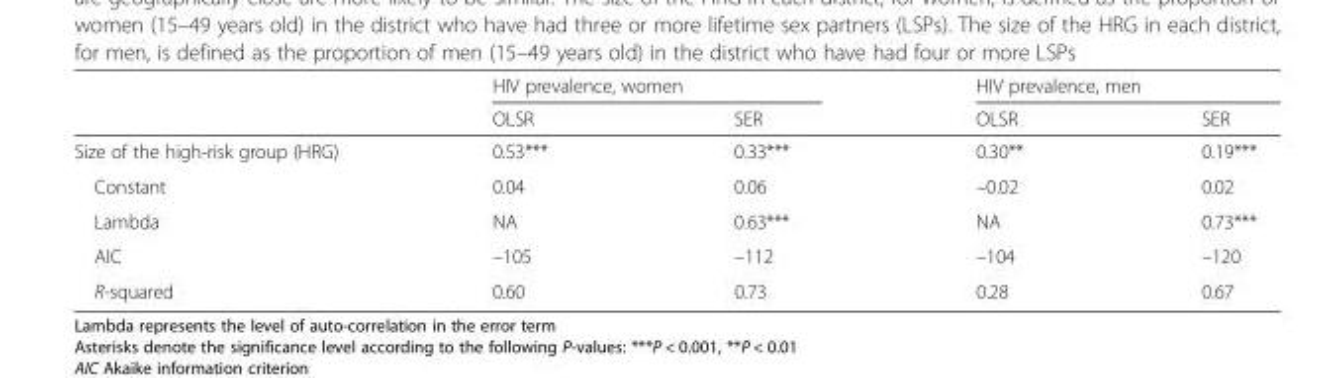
<table><thead><tr><td rowspan="2"></td><td colspan="2">HIV prevalence, women</td><td colspan="2">HIV prevalence, men</td></tr><tr><td>OLSR</td><td>SER</td><td>OLSR</td><td>SER</td></tr></thead><tbody><tr><td>Size of the high-risk group (HRG)</td><td>0.53***</td><td>0.33***</td><td>0.30**</td><td>0.19***</td></tr><tr><td>Constant</td><td>0.04</td><td>0.06</td><td>–0.02</td><td>0.02</td></tr><tr><td>Lambda</td><td>NA</td><td>0.63***</td><td>NA</td><td>0.73***</td></tr><tr><td>AIC</td><td>–105</td><td>–112</td><td>–104</td><td>–120</td></tr><tr><td>R-squared</td><td>0.60</td><td>0.73</td><td>0.28</td><td>0.67</td></tr></tbody></table>